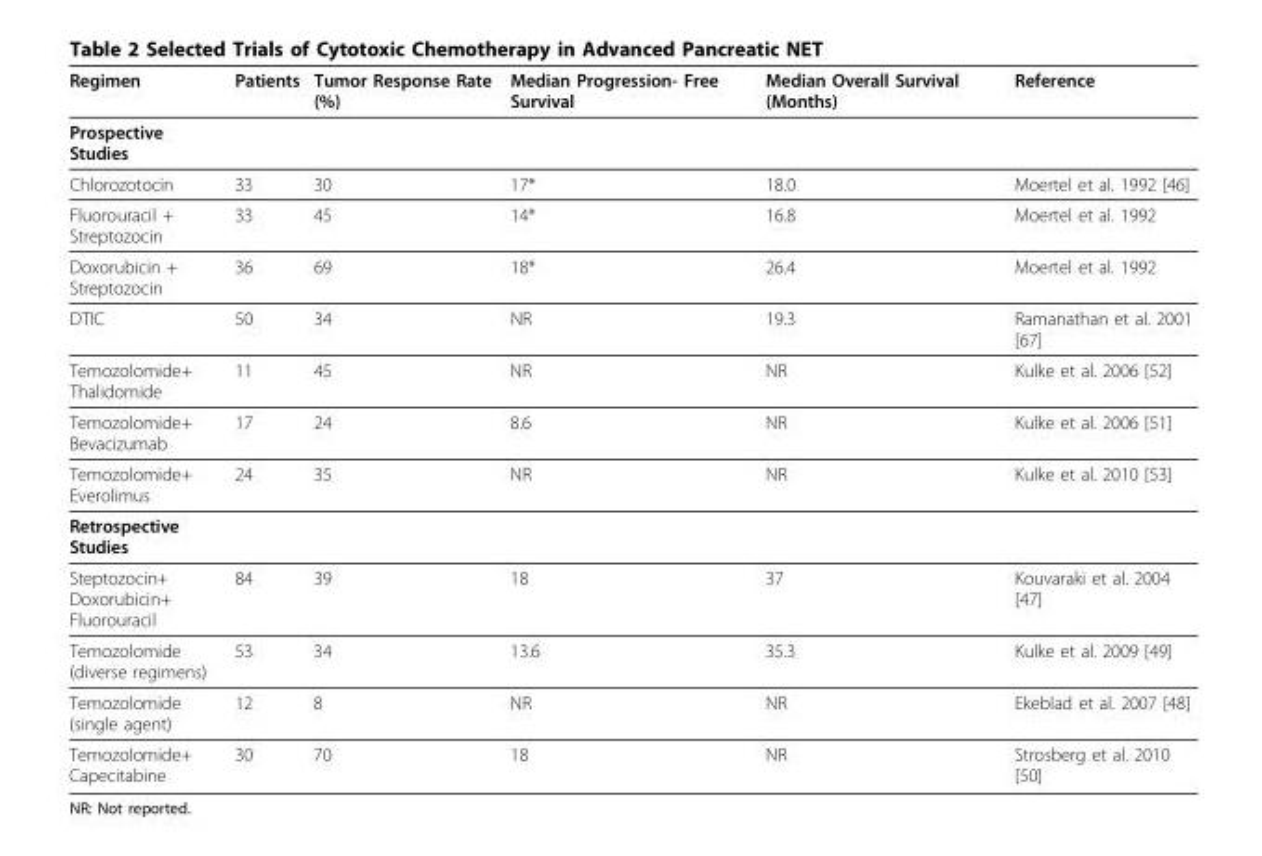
<table><thead><tr><td>Regimen</td><td>Patients</td><td>Tumor Response Rate (%)</td><td>Median Progression- Free Survival</td><td>Median Overall Survival (Months)</td><td>Reference</td></tr></thead><tbody><tr><td colspan="6">Prospective Studies</td></tr><tr><td>Chlorozotocin</td><td>33</td><td>30</td><td>17*</td><td>18.0</td><td>Moertel et al. 1992 [46]</td></tr><tr><td>Fluorouracil + Streptozocin</td><td>33</td><td>45</td><td>14*</td><td>16.8</td><td>Moertel et al. 1992</td></tr><tr><td>Doxorubicin + Streptozocin</td><td>36</td><td>69</td><td>18*</td><td>26.4</td><td>Moertel et al. 1992</td></tr><tr><td>DTIC</td><td>50</td><td>34</td><td>NR</td><td>19.3</td><td>Ramanathan et al. 2001 [67]</td></tr><tr><td>Temozolomide+ Thalidomide</td><td>11</td><td>45</td><td>NR</td><td>NR</td><td>Kulke et al. 2006 [52]</td></tr><tr><td>Temozolomide+ Bevacizumab</td><td>17</td><td>24</td><td>8.6</td><td>NR</td><td>Kulke et al. 2006 [51]</td></tr><tr><td>Temozolomide+ Everolimus</td><td>24</td><td>35</td><td>NR</td><td>NR</td><td>Kulke et al. 2010 [53]</td></tr><tr><td colspan="6">Retrospective Studies</td></tr><tr><td>Steptozocin+ Doxorubicin+ Fluorouracil</td><td>84</td><td>39</td><td>18</td><td>37</td><td>Kouvaraki et al. 2004 [47]</td></tr><tr><td>Temozolomide (diverse regimens)</td><td>53</td><td>34</td><td>13.6</td><td>35.3</td><td>Kulke et al. 2009 [49]</td></tr><tr><td>Temozolomide (single agent)</td><td>12</td><td>8</td><td>NR</td><td>NR</td><td>Ekeblad et al. 2007 [48]</td></tr><tr><td>Temozolomide+ Capecitabine</td><td>30</td><td>70</td><td>18</td><td>NR</td><td>Strosberg et al. 2010 [50]</td></tr></tbody></table>